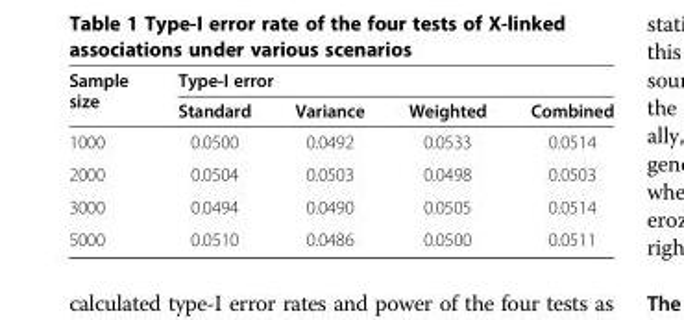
<table><thead><tr><td rowspan="2">Sample size</td><td colspan="4">Type-I error</td></tr><tr><td>Standard</td><td>Variance</td><td>Weighted</td><td>Combined</td></tr></thead><tbody><tr><td>1000</td><td>0.0500</td><td>0.0492</td><td>0.0533</td><td>0.0514</td></tr><tr><td>2000</td><td>0.0504</td><td>0.0503</td><td>0.0498</td><td>0.0503</td></tr><tr><td>3000</td><td>0.0494</td><td>0.0490</td><td>0.0505</td><td>0.0514</td></tr><tr><td>5000</td><td>0.0510</td><td>0.0486</td><td>0.0500</td><td>0.0511</td></tr></tbody></table>